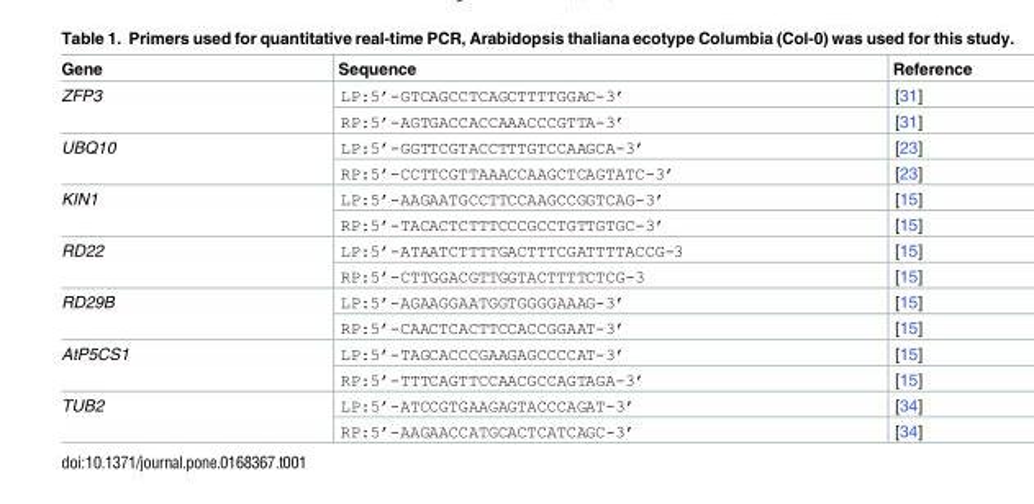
<table><thead><tr><td>Gene</td><td>Sequence</td><td>Reference</td></tr></thead><tbody><tr><td rowspan="2">ZFP3</td><td>LP:5’-GTCAGCCTCAGCTTTTGGAC-3’</td><td>[31]</td></tr><tr><td>RP:5’-AGTGACCACCAAACCCGTTA-3’</td><td>[31]</td></tr><tr><td rowspan="2">UBQ10</td><td>LP:5’-GGTTCGTACCTTTGTCCAAGCA-3’</td><td>[23]</td></tr><tr><td>RP:5’-CCTTCGTTAAACCAAGCTCAGTATC-3’</td><td>[23]</td></tr><tr><td rowspan="2">KIN1</td><td>LP:5’-AAGAATGCCTTCCAAGCCGGTCAG-3’</td><td>[15]</td></tr><tr><td>RP:5’-TACACTCTTTCCCGCCTGTTGTGC-3’</td><td>[15]</td></tr><tr><td rowspan="2">RD22</td><td>LP:5’-ATAATCTTTTGACTTTCGATTTTACCG-3</td><td>[15]</td></tr><tr><td>RP:5’-CTTGGACGTTGGTACTTTTCTCG-3</td><td>[15]</td></tr><tr><td rowspan="2">RD29B</td><td>LP:5’-AGAAGGAATGGTGGGGAAAG-3’</td><td>[15]</td></tr><tr><td>RP:5’-CAACTCACTTCCACCGGAAT-3’</td><td>[15]</td></tr><tr><td rowspan="2">AtP5CS1</td><td>LP:5’-TAGCACCCGAAGAGCCCCAT-3’</td><td>[15]</td></tr><tr><td>RP:5’-TTTCAGTTCCAACGCCAGTAGA-3’</td><td>[15]</td></tr><tr><td rowspan="2">TUB2</td><td>LP:5’-ATCCGTGAAGAGTACCCAGAT-3’</td><td>[34]</td></tr><tr><td>RP:5’-AAGAACCATGCACTCATCAGC-3’</td><td>[34]</td></tr></tbody></table>